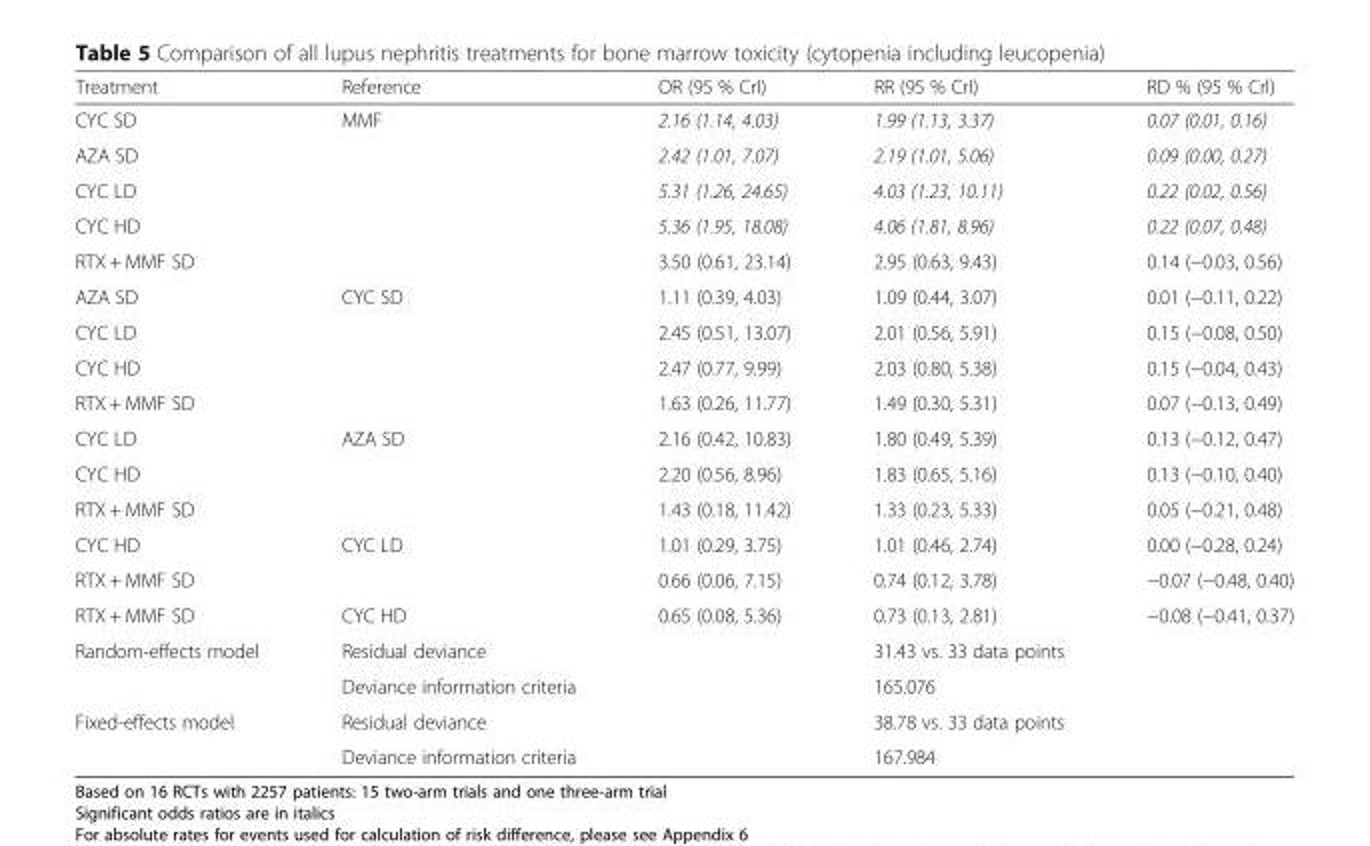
<table><thead><tr><td>Treatment</td><td>Reference</td><td>OR (95 % CrI)</td><td>RR (95 % CrI)</td><td>RD % (95 % Crl)</td></tr></thead><tbody><tr><td>CYC SD</td><td>MMF</td><td>2.16 (1.14, 4.03)</td><td>1.99 (1.13, 3.37)</td><td>0.07 (0.01, 0.16)</td></tr><tr><td>AZA SD</td><td></td><td>2.42 (1.01, 7.07)</td><td>2.19 (1.01, 5.06)</td><td>0.09 (0.00, 0.27)</td></tr><tr><td>CYC LD</td><td></td><td>5.31 (1.26, 24.65)</td><td>4.03 (1.23, 10.11)</td><td>0.22 (0.02, 0.56)</td></tr><tr><td>CYC HD</td><td></td><td>5.36 (1.95, 18.08)</td><td>4.06 (1.81, 8.96)</td><td>0.22 (0.07, 0.48)</td></tr><tr><td>RTX + MMF SD</td><td></td><td>3.50 (0.61, 23.14)</td><td>2.95 (0.63, 9.43)</td><td>0.14 (−0.03, 0.56)</td></tr><tr><td>AZA SD</td><td>CYC SD</td><td>1.11 (0.39, 4.03)</td><td>1.09 (0.44, 3.07)</td><td>0.01 (−0.11, 0.22)</td></tr><tr><td>CYC LD</td><td></td><td>2.45 (0.51, 13.07)</td><td>2.01 (0.56, 5.91)</td><td>0.15 (−0.08, 0.50)</td></tr><tr><td>CYC HD</td><td></td><td>2.47 (0.77, 9.99)</td><td>2.03 (0.80, 5.38)</td><td>0.15 (−0.04, 0.43)</td></tr><tr><td>RTX + MMF SD</td><td></td><td>1.63 (0.26, 11.77)</td><td>1.49 (0.30, 5.31)</td><td>0.07 (−0.13, 0.49)</td></tr><tr><td>CYC LD</td><td>AZA SD</td><td>2.16 (0.42, 10.83)</td><td>1.80 (0.49, 5.39)</td><td>0.13 (−0.12, 0.47)</td></tr><tr><td>CYC HD</td><td></td><td>2.20 (0.56, 8.96)</td><td>1.83 (0.65, 5.16)</td><td>0.13 (−0.10, 0.40)</td></tr><tr><td>RTX + MMF SD</td><td></td><td>1.43 (0.18, 11.42)</td><td>1.33 (0.23, 5.33)</td><td>0.05 (−0.21, 0.48)</td></tr><tr><td>CYC HD</td><td>CYC LD</td><td>1.01 (0.29, 3.75)</td><td>1.01 (0.46, 2.74)</td><td>0.00 (−0.28, 0.24)</td></tr><tr><td>RTX + MMF SD</td><td></td><td>0.66 (0.06, 7.15)</td><td>0.74 (0.12, 3.78)</td><td>−0.07 (−0.48, 0.40)</td></tr><tr><td>RTX + MMF SD</td><td>CYC HD</td><td>0.65 (0.08, 5.36)</td><td>0.73 (0.13, 2.81)</td><td>−0.08 (−0.41, 0.37)</td></tr><tr><td rowspan="2">Random-effects model</td><td>Residual deviance</td><td></td><td>31.43 vs. 33 data points</td><td></td></tr><tr><td>Deviance information criteria</td><td></td><td>165.076</td><td></td></tr><tr><td rowspan="2">Fixed-effects model</td><td>Residual deviance</td><td></td><td>38.78 vs. 33 data points</td><td></td></tr><tr><td>Deviance information criteria</td><td></td><td>167.984</td><td></td></tr></tbody></table>